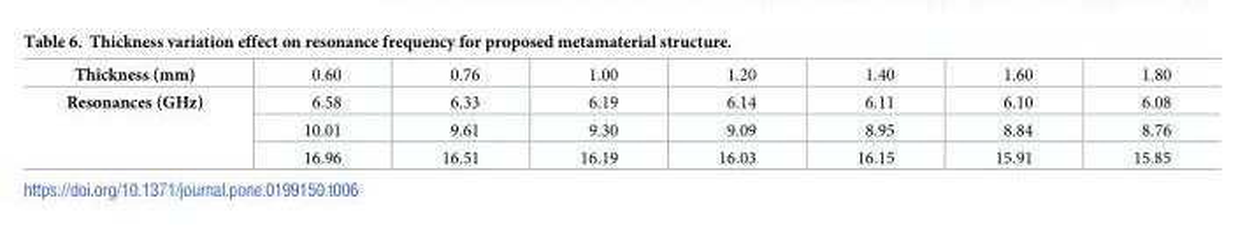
<table><tbody><tr><td>Thickness (mm)</td><td>0.60</td><td>0.76</td><td>1.00</td><td>1.20</td><td>1.40</td><td>1.60</td><td>1.80</td></tr><tr><td rowspan="3">Resonances (GHz)</td><td>6.58</td><td>6.33</td><td>6.19</td><td>6.14</td><td>6.11</td><td>6.10</td><td>6.08</td></tr><tr><td>10.01</td><td>9.61</td><td>9.30</td><td>9.09</td><td>8.95</td><td>8.84</td><td>8.76</td></tr><tr><td>16.96</td><td>16.51</td><td>16.19</td><td>16.03</td><td>16.15</td><td>15.91</td><td>15.85</td></tr></tbody></table>